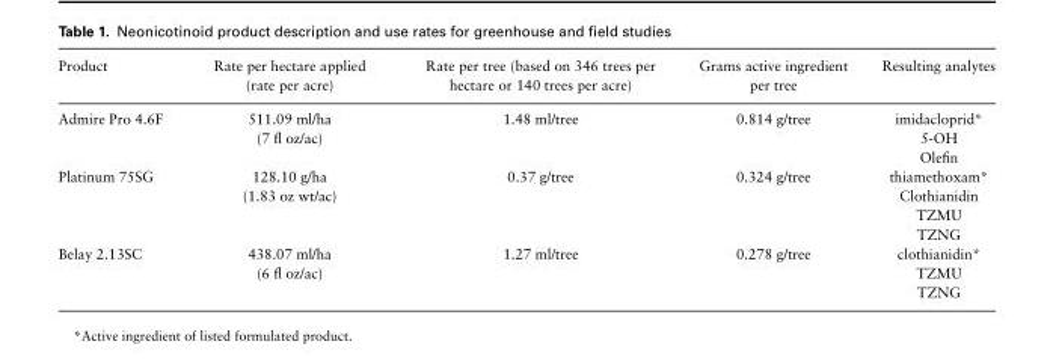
<table><thead><tr><td>Product</td><td>Rate per hectare applied (rate per acre)</td><td>Rate per tree (based on 346 trees per hectare or 140 trees per acre)</td><td>Grams active ingredient per tree</td><td>Resulting analytes</td></tr></thead><tbody><tr><td rowspan="3">Admire Pro 4.6F</td><td rowspan="3">511.09 ml/ha (7 fl oz/ac)</td><td rowspan="3">1.48 ml/tree</td><td rowspan="3">0.814 g/tree</td><td>imidacloprid*</td></tr><tr><td>5-OH</td></tr><tr><td>Olefin</td></tr><tr><td rowspan="4">Platinum 75SG</td><td rowspan="4">128.10 g/ha (1.83 oz wt/ac)</td><td rowspan="4">0.37 g/tree</td><td rowspan="4">0.324 g/tree</td><td>thiamethoxam*</td></tr><tr><td>Clothianidin</td></tr><tr><td>TZMU</td></tr><tr><td>TZNG</td></tr><tr><td rowspan="3">Belay 2.13SC</td><td rowspan="3">438.07 ml/ha (6 fl oz/ac)</td><td rowspan="3">1.27 ml/tree</td><td rowspan="3">0.278 g/tree</td><td>clothianidin*</td></tr><tr><td>TZMU</td></tr><tr><td>TZNG</td></tr></tbody></table>